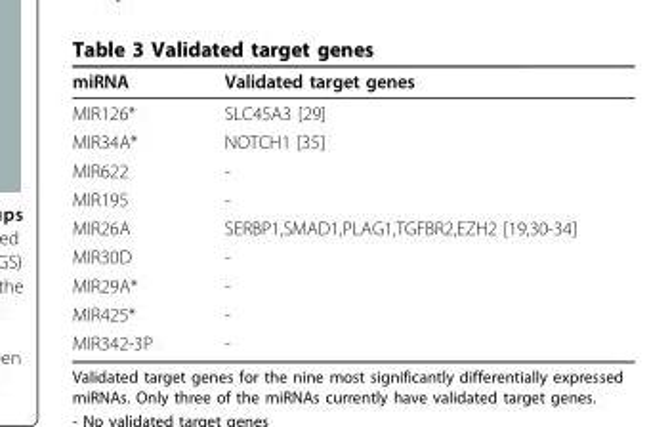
<table><thead><tr><td>miRNA</td><td>Validated target genes</td></tr></thead><tbody><tr><td>MIR126*</td><td>SLC45A3 [29]</td></tr><tr><td>MIR34A*</td><td>NOTCH1 [35]</td></tr><tr><td>MIR622</td><td>-</td></tr><tr><td>MIR195</td><td>-</td></tr><tr><td>MIR26A</td><td>SERBP1,SMAD1,PLAG1,TGFBR2,EZH2 [19,30-34]</td></tr><tr><td>MIR30D</td><td>-</td></tr><tr><td>MIR29A*</td><td>-</td></tr><tr><td>MIR425*</td><td>-</td></tr><tr><td>MIR342-3P</td><td>-</td></tr></tbody></table>